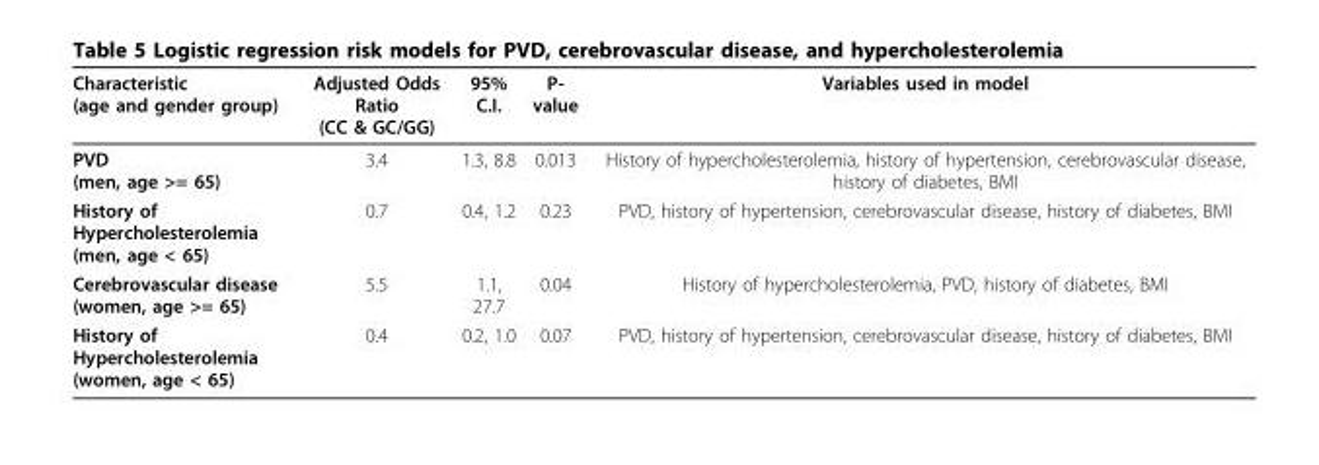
<table><thead><tr><td>Characteristic (age and gender group)</td><td>Adjusted Odds Ratio (CC &amp; GC/GG)</td><td>95% C.I.</td><td>P- value</td><td>Variables used in model</td></tr></thead><tbody><tr><td>PVD (men, age &gt;= 65)</td><td>3.4</td><td>1.3, 8.8</td><td>0.013</td><td>History of hypercholesterolemia, history of hypertension, cerebrovascular disease, history of diabetes, BMI</td></tr><tr><td>History of Hypercholesterolemia (men, age &lt; 65)</td><td>0.7</td><td>0.4, 1.2</td><td>0.23</td><td>PVD, history of hypertension, cerebrovascular disease, history of diabetes, BMI</td></tr><tr><td>Cerebrovascular disease (women, age &gt;= 65)</td><td>5.5</td><td>1.1, 27.7</td><td>0.04</td><td>History of hypercholesterolemia, PVD, history of diabetes, BMI</td></tr><tr><td>History of Hypercholesterolemia (women, age &lt; 65)</td><td>0.4</td><td>0.2, 1.0</td><td>0.07</td><td>PVD, history of hypertension, cerebrovascular disease, history of diabetes, BMI</td></tr></tbody></table>